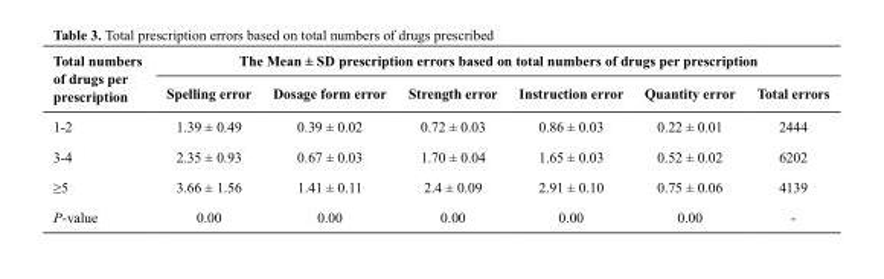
<table><thead><tr><td rowspan="2">Total numbers of drugs per prescription</td><td colspan="6">The Mean ± SD prescription errors based on total numbers of drugs per prescription</td></tr><tr><td>Spelling error</td><td>Dosage form error</td><td>Strength error</td><td>Instruction error</td><td>Quantity error</td><td>Total errors</td></tr></thead><tbody><tr><td>1-2</td><td>1.39 ± 0.49</td><td>0.39 ± 0.02</td><td>0.72 ± 0.03</td><td>0.86 ± 0.03</td><td>0.22 ± 0.01</td><td>2444</td></tr><tr><td>3-4</td><td>2.35 ± 0.93</td><td>0.67 ± 0.03</td><td>1.70 ± 0.04</td><td>1.65 ± 0.03</td><td>0.52 ± 0.02</td><td>6202</td></tr><tr><td>≥5</td><td>3.66 ± 1.56</td><td>1.41 ± 0.11</td><td>2.4 ± 0.09</td><td>2.91 ± 0.10</td><td>0.75 ± 0.06</td><td>4139</td></tr><tr><td>P-value</td><td>0.00</td><td>0.00</td><td>0.00</td><td>0.00</td><td>0.00</td><td>-</td></tr></tbody></table>